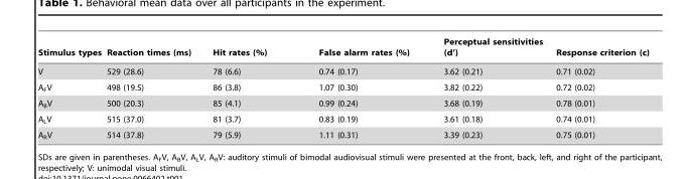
<table><thead><tr><td>Stimulus types</td><td>Reaction times (ms)</td><td>Hit rates (%)</td><td>False alarm rates (%)</td><td>Perceptual sensitivities (d’)</td><td>Response criterion (c)</td></tr></thead><tbody><tr><td>V</td><td>529 (28.6)</td><td>78 (6.6)</td><td>0.74 (0.17)</td><td>3.62 (0.21)</td><td>0.71 (0.02)</td></tr><tr><td>A<sub>F</sub>V</td><td>498 (19.5)</td><td>86 (3.8)</td><td>1.07 (0.30)</td><td>3.82 (0.22)</td><td>0.72 (0.02)</td></tr><tr><td>A<sub>B</sub>V</td><td>500 (20.3)</td><td>85 (4.1)</td><td>0.99 (0.24)</td><td>3.68 (0.19)</td><td>0.78 (0.01)</td></tr><tr><td>A<sub>L</sub>V</td><td>515 (37.0)</td><td>81 (3.7)</td><td>0.83 (0.19)</td><td>3.61 (0.18)</td><td>0.74 (0.01)</td></tr><tr><td>A<sub>R</sub>V</td><td>514 (37.8)</td><td>79 (5.9)</td><td>1.11 (0.31)</td><td>3.39 (0.23)</td><td>0.75 (0.01)</td></tr></tbody></table>